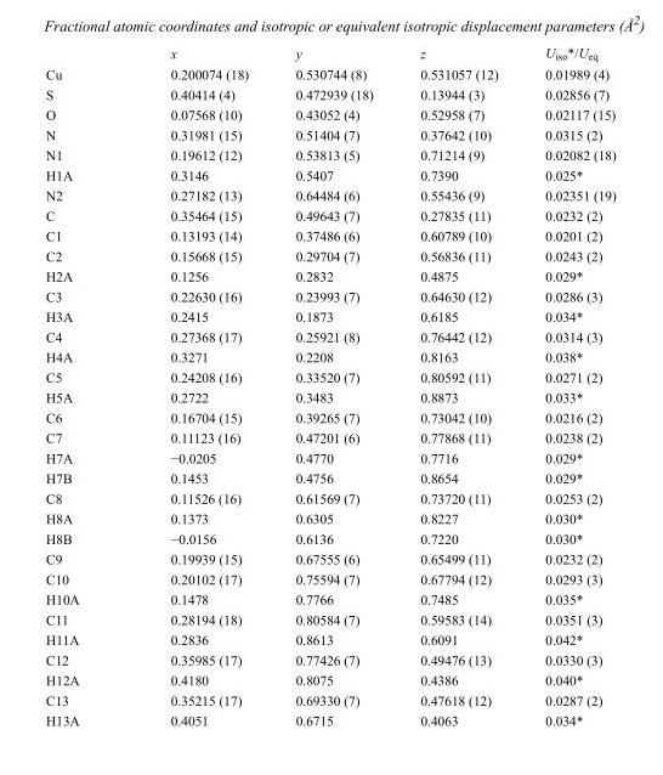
<table><thead><tr><td></td><td>x</td><td>y</td><td>z</td><td>U<sub>iso</sub>*/U<sub>eq</sub></td></tr></thead><tbody><tr><td>Cu</td><td>0.200074 (18)</td><td>0.530744 (8)</td><td>0.531057 (12)</td><td>0.01989 (4)</td></tr><tr><td>S</td><td>0.40414 (4)</td><td>0.472939 (18)</td><td>0.13944 (3)</td><td>0.02856 (7)</td></tr><tr><td>O</td><td>0.07568 (10)</td><td>0.43052 (4)</td><td>0.52958 (7)</td><td>0.02117 (15)</td></tr><tr><td>N</td><td>0.31981 (15)</td><td>0.51404 (7)</td><td>0.37642 (10)</td><td>0.0315 (2)</td></tr><tr><td>N1</td><td>0.19612 (12)</td><td>0.53813 (5)</td><td>0.71214 (9)</td><td>0.02082 (18)</td></tr><tr><td>H1A</td><td>0.3146</td><td>0.5407</td><td>0.7390</td><td>0.025*</td></tr><tr><td>N2</td><td>0.27182 (13)</td><td>0.64484 (6)</td><td>0.55436 (9)</td><td>0.02351 (19)</td></tr><tr><td>C</td><td>0.35464 (15)</td><td>0.49643 (7)</td><td>0.27835 (11)</td><td>0.0232 (2)</td></tr><tr><td>C1</td><td>0.13193 (14)</td><td>0.37486 (6)</td><td>0.60789 (10)</td><td>0.0201 (2)</td></tr><tr><td>C2</td><td>0.15668 (15)</td><td>0.29704 (7)</td><td>0.56836 (11)</td><td>0.0243 (2)</td></tr><tr><td>H2A</td><td>0.1256</td><td>0.2832</td><td>0.4875</td><td>0.029*</td></tr><tr><td>C3</td><td>0.22630 (16)</td><td>0.23993 (7)</td><td>0.64630 (12)</td><td>0.0286 (3)</td></tr><tr><td>H3A</td><td>0.2415</td><td>0.1873</td><td>0.6185</td><td>0.034*</td></tr><tr><td>C4</td><td>0.27368 (17)</td><td>0.25921 (8)</td><td>0.76442 (12)</td><td>0.0314 (3)</td></tr><tr><td>H4A</td><td>0.3271</td><td>0.2208</td><td>0.8163</td><td>0.038*</td></tr><tr><td>C5</td><td>0.24208 (16)</td><td>0.33520 (7)</td><td>0.80592 (11)</td><td>0.0271 (2)</td></tr><tr><td>H5A</td><td>0.2722</td><td>0.3483</td><td>0.8873</td><td>0.033*</td></tr><tr><td>C6</td><td>0.16704 (15)</td><td>0.39265 (7)</td><td>0.73042 (10)</td><td>0.0216 (2)</td></tr><tr><td>C7</td><td>0.11123 (16)</td><td>0.47201 (6)</td><td>0.77868 (11)</td><td>0.0238 (2)</td></tr><tr><td>H7A</td><td>−0.0205</td><td>0.4770</td><td>0.7716</td><td>0.029*</td></tr><tr><td>H7B</td><td>0.1453</td><td>0.4756</td><td>0.8654</td><td>0.029*</td></tr><tr><td>C8</td><td>0.11526 (16)</td><td>0.61569 (7)</td><td>0.73720 (11)</td><td>0.0253 (2)</td></tr><tr><td>H8A</td><td>0.1373</td><td>0.6305</td><td>0.8227</td><td>0.030*</td></tr><tr><td>H8B</td><td>−0.0156</td><td>0.6136</td><td>0.7220</td><td>0.030*</td></tr><tr><td>C9</td><td>0.19939 (15)</td><td>0.67555 (6)</td><td>0.65499 (11)</td><td>0.0232 (2)</td></tr><tr><td>C10</td><td>0.20102 (17)</td><td>0.75594 (7)</td><td>0.67794 (12)</td><td>0.0293 (3)</td></tr><tr><td>H10A</td><td>0.1478</td><td>0.7766</td><td>0.7485</td><td>0.035*</td></tr><tr><td>C11</td><td>0.28194 (18)</td><td>0.80584 (7)</td><td>0.59583 (14)</td><td>0.0351 (3)</td></tr><tr><td>H11A</td><td>0.2836</td><td>0.8613</td><td>0.6091</td><td>0.042*</td></tr><tr><td>C12</td><td>0.35985 (17)</td><td>0.77426 (7)</td><td>0.49476 (13)</td><td>0.0330 (3)</td></tr><tr><td>H12A</td><td>0.4180</td><td>0.8075</td><td>0.4386</td><td>0.040*</td></tr><tr><td>C13</td><td>0.35215 (17)</td><td>0.69330 (7)</td><td>0.47618 (12)</td><td>0.0287 (2)</td></tr><tr><td>H13A</td><td>0.4051</td><td>0.6715</td><td>0.4063</td><td>0.034*</td></tr></tbody></table>